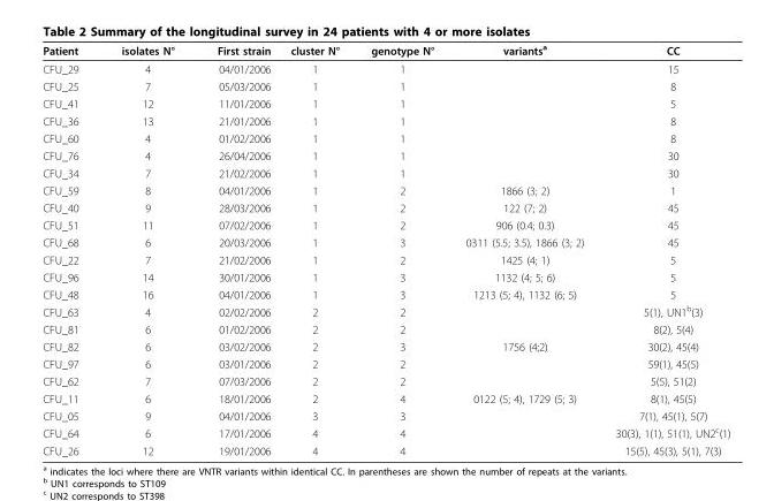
<table><thead><tr><td>Patient</td><td>isolates N°</td><td>First strain</td><td>cluster N°</td><td>genotype N°</td><td>variants<sup>a</sup></td><td>CC</td></tr></thead><tbody><tr><td>CFU_29</td><td>4</td><td>04/01/2006</td><td>1</td><td>1</td><td></td><td>15</td></tr><tr><td>CFU_25</td><td>7</td><td>05/03/2006</td><td>1</td><td>1</td><td></td><td>8</td></tr><tr><td>CFU_41</td><td>12</td><td>11/01/2006</td><td>1</td><td>1</td><td></td><td>5</td></tr><tr><td>CFU_36</td><td>13</td><td>21/01/2006</td><td>1</td><td>1</td><td></td><td>8</td></tr><tr><td>CFU_60</td><td>4</td><td>01/02/2006</td><td>1</td><td>1</td><td></td><td>8</td></tr><tr><td>CFU_76</td><td>4</td><td>26/04/2006</td><td>1</td><td>1</td><td></td><td>30</td></tr><tr><td>CFU_34</td><td>7</td><td>21/02/2006</td><td>1</td><td>1</td><td></td><td>30</td></tr><tr><td>CFU_59</td><td>8</td><td>04/01/2006</td><td>1</td><td>2</td><td>1866 (3; 2)</td><td>1</td></tr><tr><td>CFU_40</td><td>9</td><td>28/03/2006</td><td>1</td><td>2</td><td>122 (7; 2)</td><td>45</td></tr><tr><td>CFU_51</td><td>11</td><td>07/02/2006</td><td>1</td><td>2</td><td>906 (0.4; 0.3)</td><td>45</td></tr><tr><td>CFU_68</td><td>6</td><td>20/03/2006</td><td>1</td><td>3</td><td>0311 (5.5; 3.5), 1866 (3; 2)</td><td>45</td></tr><tr><td>CFU_22</td><td>7</td><td>21/02/2006</td><td>1</td><td>2</td><td>1425 (4; 1)</td><td>5</td></tr><tr><td>CFU_96</td><td>14</td><td>30/01/2006</td><td>1</td><td>3</td><td>1132 (4; 5; 6)</td><td>5</td></tr><tr><td>CFU_48</td><td>16</td><td>04/01/2006</td><td>1</td><td>3</td><td>1213 (5; 4), 1132 (6; 5)</td><td>5</td></tr><tr><td>CFU_63</td><td>4</td><td>02/02/2006</td><td>2</td><td>2</td><td></td><td>5(1), UN1<sup>b</sup>(3)</td></tr><tr><td>CFU_81</td><td>6</td><td>01/02/2006</td><td>2</td><td>2</td><td></td><td>8(2), 5(4)</td></tr><tr><td>CFU_82</td><td>6</td><td>03/02/2006</td><td>2</td><td>3</td><td>1756 (4;2)</td><td>30(2), 45(4)</td></tr><tr><td>CFU_97</td><td>6</td><td>03/01/2006</td><td>2</td><td>2</td><td></td><td>59(1), 45(5)</td></tr><tr><td>CFU_62</td><td>7</td><td>07/03/2006</td><td>2</td><td>2</td><td></td><td>5(5), 51(2)</td></tr><tr><td>CFU_11</td><td>6</td><td>18/01/2006</td><td>2</td><td>4</td><td>0122 (5; 4), 1729 (5; 3)</td><td>8(1), 45(5)</td></tr><tr><td>CFU_05</td><td>9</td><td>04/01/2006</td><td>3</td><td>3</td><td></td><td>7(1), 45(1), 5(7)</td></tr><tr><td>CFU_64</td><td>6</td><td>17/01/2006</td><td>4</td><td>4</td><td></td><td>30(3), 1(1), 51(1), UN2<sup>c</sup>(1)</td></tr><tr><td>CFU_26</td><td>12</td><td>19/01/2006</td><td>4</td><td>4</td><td></td><td>15(5), 45(3), 5(1), 7(3)</td></tr></tbody></table>